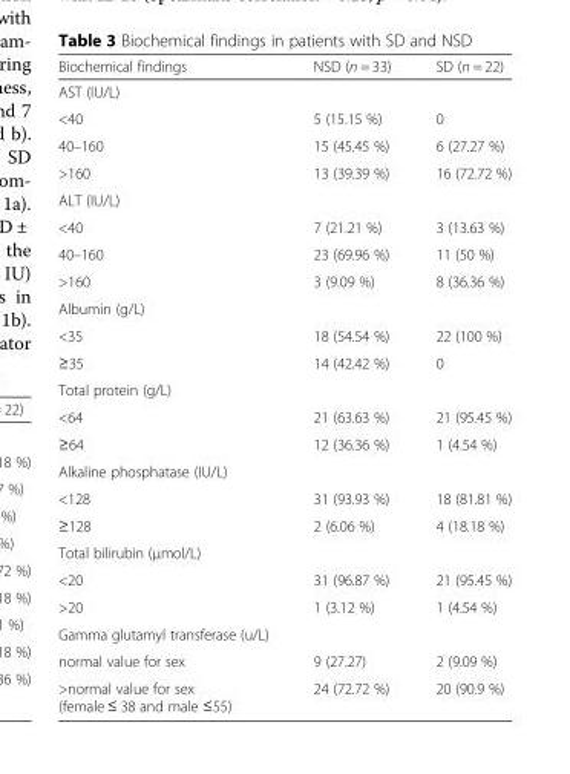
<table><thead><tr><td>Biochemical findings</td><td>NSD (n = 33)</td><td>SD (n = 22)</td></tr></thead><tbody><tr><td colspan="3">AST (IU/L)</td></tr><tr><td>&lt;40</td><td>5 (15.15 %)</td><td>0</td></tr><tr><td>40–160</td><td>15 (45.45 %)</td><td>6 (27.27 %)</td></tr><tr><td>&gt;160</td><td>13 (39.39 %)</td><td>16 (72.72 %)</td></tr><tr><td colspan="3">ALT (IU/L)</td></tr><tr><td>&lt;40</td><td>7 (21.21 %)</td><td>3 (13.63 %)</td></tr><tr><td>40–160</td><td>23 (69.96 %)</td><td>11 (50 %)</td></tr><tr><td>&gt;160</td><td>3 (9.09 %)</td><td>8 (36.36 %)</td></tr><tr><td colspan="3">Albumin (g/L)</td></tr><tr><td>&lt;35</td><td>18 (54.54 %)</td><td>22 (100 %)</td></tr><tr><td>≥35</td><td>14 (42.42 %)</td><td>0</td></tr><tr><td colspan="3">Total protein (g/L)</td></tr><tr><td>&lt;64</td><td>21 (63.63 %)</td><td>21 (95.45 %)</td></tr><tr><td>≥64</td><td>12 (36.36 %)</td><td>1 (4.54 %)</td></tr><tr><td colspan="3">Alkaline phosphatase (IU/L)</td></tr><tr><td>&lt;128</td><td>31 (93.93 %)</td><td>18 (81.81 %)</td></tr><tr><td>≥128</td><td>2 (6.06 %)</td><td>4 (18.18 %)</td></tr><tr><td colspan="3">Total bilirubin (μmol/L)</td></tr><tr><td>&lt;20</td><td>31 (96.87 %)</td><td>21 (95.45 %)</td></tr><tr><td>&gt;20</td><td>1 (3.12 %)</td><td>1 (4.54 %)</td></tr><tr><td colspan="3">Gamma glutamyl transferase (u/L)</td></tr><tr><td>normal value for sex</td><td>9 (27.27)</td><td>2 (9.09 %)</td></tr><tr><td>&gt;normal value for sex (female ≤ 38 and male ≤55)</td><td>24 (72.72 %)</td><td>20 (90.9 %)</td></tr></tbody></table>